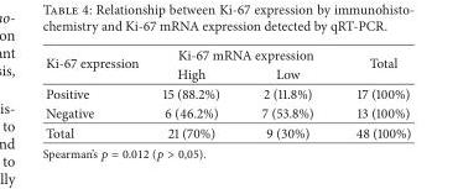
<table><thead><tr><td rowspan="2">Ki-67 expression</td><td colspan="2">Ki-67 mRNA expression</td><td rowspan="2">Total</td></tr><tr><td>High</td><td>Low</td></tr></thead><tbody><tr><td>Positive</td><td>15 (88.2%)</td><td>2 (11.8%)</td><td>17 (100%)</td></tr><tr><td>Negative</td><td>6 (46.2%)</td><td>7 (53.8%)</td><td>13 (100%)</td></tr><tr><td>Total</td><td>21 (70%)</td><td>9 (30%)</td><td>48 (100%)</td></tr></tbody></table>